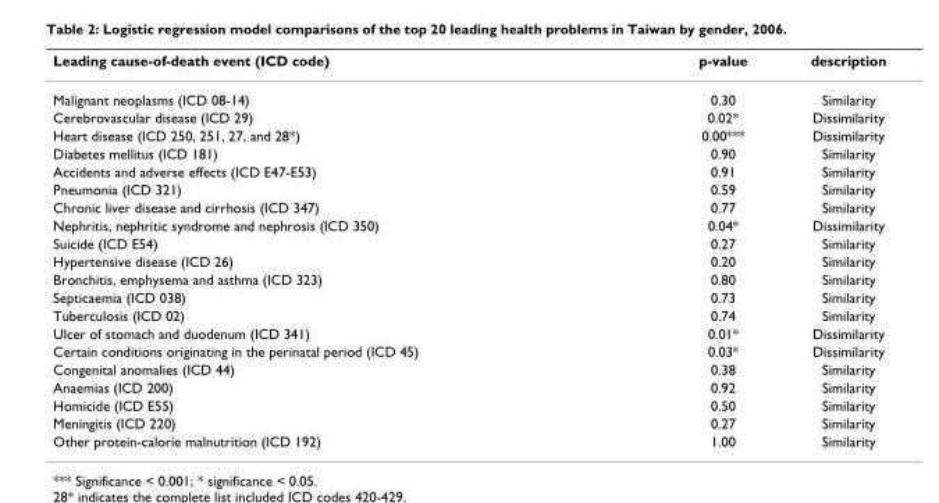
<table><thead><tr><td>Leading cause-of-death event (ICD code)</td><td>p-value</td><td>description</td></tr></thead><tbody><tr><td>Malignant neoplasms (ICD 08-14)</td><td>0.30</td><td>Similarity</td></tr><tr><td>Cerebrovascular disease (ICD 29)</td><td>0.02*</td><td>Dissimilarity</td></tr><tr><td>Heart disease (ICD 250, 251, 27, and 28*)</td><td>0.00***</td><td>Dissimilarity</td></tr><tr><td>Diabetes mellitus (ICD 181)</td><td>0.90</td><td>Similarity</td></tr><tr><td>Accidents and adverse effects (ICD E47-E53)</td><td>0.91</td><td>Similarity</td></tr><tr><td>Pneumonia (ICD 321)</td><td>0.59</td><td>Similarity</td></tr><tr><td>Chronic liver disease and cirrhosis (ICD 347)</td><td>0.77</td><td>Similarity</td></tr><tr><td>Nephritis, nephritic syndrome and nephrosis (ICD 350)</td><td>0.04*</td><td>Dissimilarity</td></tr><tr><td>Suicide (ICD E54)</td><td>0.27</td><td>Similarity</td></tr><tr><td>Hypertensive disease (ICD 26)</td><td>0.20</td><td>Similarity</td></tr><tr><td>Bronchitis, emphysema and asthma (ICD 323)</td><td>0.80</td><td>Similarity</td></tr><tr><td>Septicaemia (ICD 038)</td><td>0.73</td><td>Similarity</td></tr><tr><td>Tuberculosis (ICD 02)</td><td>0.74</td><td>Similarity</td></tr><tr><td>Ulcer of stomach and duodenum (ICD 341)</td><td>0.01*</td><td>Dissimilarity</td></tr><tr><td>Certain conditions originating in the perinatal period (ICD 45)</td><td>0.03*</td><td>Dissimilarity</td></tr><tr><td>Congenital anomalies (ICD 44)</td><td>0.38</td><td>Similarity</td></tr><tr><td>Anaemias (ICD 200)</td><td>0.92</td><td>Similarity</td></tr><tr><td>Homicide (ICD E55)</td><td>0.50</td><td>Similarity</td></tr><tr><td>Meningitis (ICD 220)</td><td>0.27</td><td>Similarity</td></tr><tr><td>Other protein-calorie malnutrition (ICD 192)</td><td>1.00</td><td>Similarity</td></tr></tbody></table>